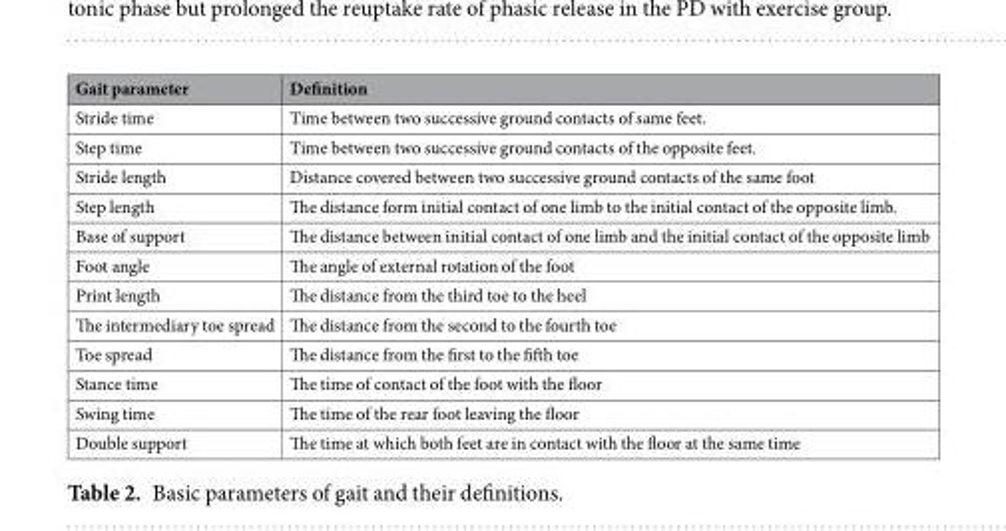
<table><thead><tr><td>Gait parameter</td><td>Definition</td></tr></thead><tbody><tr><td>Stride time</td><td>Time between two successive ground contacts of same feet.</td></tr><tr><td>Step time</td><td>Time between two successive ground contacts of the opposite feet.</td></tr><tr><td>Stride length</td><td>Distance covered between two successive ground contacts of the same foot</td></tr><tr><td>Step length</td><td>The distance form initial contact of one limb to the initial contact of the opposite limb.</td></tr><tr><td>Base of support</td><td>The distance between initial contact of one limb and the initial contact of the opposite limb</td></tr><tr><td>Foot angle</td><td>The angle of external rotation of the foot</td></tr><tr><td>Print length</td><td>The distance from the third toe to the heel</td></tr><tr><td>The intermediary toe spread</td><td>The distance from the second to the fourth toe</td></tr><tr><td>Toe spread</td><td>The distance from the first to the fifth toe</td></tr><tr><td>Stance time</td><td>The time of contact of the foot with the floor</td></tr><tr><td>Swing time</td><td>The time of the rear foot leaving the floor</td></tr><tr><td>Double support</td><td>The time at which both feet are in contact with the floor at the same time</td></tr></tbody></table>